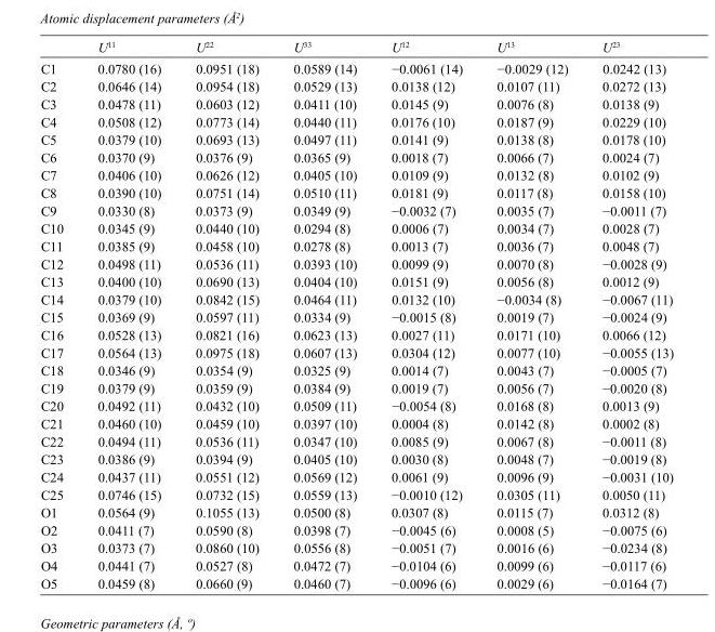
<table><thead><tr><td></td><td>U<sup>11</sup></td><td>U<sup>22</sup></td><td>U<sup>33</sup></td><td>U<sup>12</sup></td><td>U<sup>13</sup></td><td>U<sup>23</sup></td></tr></thead><tbody><tr><td>C1</td><td>0.0780 (16)</td><td>0.0951 (18)</td><td>0.0589 (14)</td><td>−0.0061 (14)</td><td>−0.0029 (12)</td><td>0.0242 (13)</td></tr><tr><td>C2</td><td>0.0646 (14)</td><td>0.0954 (18)</td><td>0.0529 (13)</td><td>0.0138 (12)</td><td>0.0107 (11)</td><td>0.0272 (13)</td></tr><tr><td>C3</td><td>0.0478 (11)</td><td>0.0603 (12)</td><td>0.0411 (10)</td><td>0.0145 (9)</td><td>0.0076 (8)</td><td>0.0138 (9)</td></tr><tr><td>C4</td><td>0.0508 (12)</td><td>0.0773 (14)</td><td>0.0440 (11)</td><td>0.0176 (10)</td><td>0.0187 (9)</td><td>0.0229 (10)</td></tr><tr><td>C5</td><td>0.0379 (10)</td><td>0.0693 (13)</td><td>0.0497 (11)</td><td>0.0141 (9)</td><td>0.0138 (8)</td><td>0.0178 (10)</td></tr><tr><td>C6</td><td>0.0370 (9)</td><td>0.0376 (9)</td><td>0.0365 (9)</td><td>0.0018 (7)</td><td>0.0066 (7)</td><td>0.0024 (7)</td></tr><tr><td>C7</td><td>0.0406 (10)</td><td>0.0626 (12)</td><td>0.0405 (10)</td><td>0.0109 (9)</td><td>0.0132 (8)</td><td>0.0102 (9)</td></tr><tr><td>C8</td><td>0.0390 (10)</td><td>0.0751 (14)</td><td>0.0510 (11)</td><td>0.0181 (9)</td><td>0.0117 (8)</td><td>0.0158 (10)</td></tr><tr><td>C9</td><td>0.0330 (8)</td><td>0.0373 (9)</td><td>0.0349 (9)</td><td>−0.0032 (7)</td><td>0.0035 (7)</td><td>−0.0011 (7)</td></tr><tr><td>C10</td><td>0.0345 (9)</td><td>0.0440 (10)</td><td>0.0294 (8)</td><td>0.0006 (7)</td><td>0.0034 (7)</td><td>0.0028 (7)</td></tr><tr><td>C11</td><td>0.0385 (9)</td><td>0.0458 (10)</td><td>0.0278 (8)</td><td>0.0013 (7)</td><td>0.0036 (7)</td><td>0.0048 (7)</td></tr><tr><td>C12</td><td>0.0498 (11)</td><td>0.0536 (11)</td><td>0.0393 (10)</td><td>0.0099 (9)</td><td>0.0070 (8)</td><td>−0.0028 (9)</td></tr><tr><td>C13</td><td>0.0400 (10)</td><td>0.0690 (13)</td><td>0.0404 (10)</td><td>0.0151 (9)</td><td>0.0056 (8)</td><td>0.0012 (9)</td></tr><tr><td>C14</td><td>0.0379 (10)</td><td>0.0842 (15)</td><td>0.0464 (11)</td><td>0.0132 (10)</td><td>−0.0034 (8)</td><td>−0.0067 (11)</td></tr><tr><td>C15</td><td>0.0369 (9)</td><td>0.0597 (11)</td><td>0.0334 (9)</td><td>−0.0015 (8)</td><td>0.0019 (7)</td><td>−0.0024 (9)</td></tr><tr><td>C16</td><td>0.0528 (13)</td><td>0.0821 (16)</td><td>0.0623 (13)</td><td>0.0027 (11)</td><td>0.0171 (10)</td><td>0.0066 (12)</td></tr><tr><td>C17</td><td>0.0564 (13)</td><td>0.0975 (18)</td><td>0.0607 (13)</td><td>0.0304 (12)</td><td>0.0077 (10)</td><td>−0.0055 (13)</td></tr><tr><td>C18</td><td>0.0346 (9)</td><td>0.0354 (9)</td><td>0.0325 (9)</td><td>0.0014 (7)</td><td>0.0043 (7)</td><td>−0.0005 (7)</td></tr><tr><td>C19</td><td>0.0379 (9)</td><td>0.0359 (9)</td><td>0.0384 (9)</td><td>0.0019 (7)</td><td>0.0056 (7)</td><td>−0.0020 (8)</td></tr><tr><td>C20</td><td>0.0492 (11)</td><td>0.0432 (10)</td><td>0.0509 (11)</td><td>−0.0054 (8)</td><td>0.0168 (8)</td><td>0.0013 (9)</td></tr><tr><td>C21</td><td>0.0460 (10)</td><td>0.0459 (10)</td><td>0.0397 (10)</td><td>0.0004 (8)</td><td>0.0142 (8)</td><td>0.0002 (8)</td></tr><tr><td>C22</td><td>0.0494 (11)</td><td>0.0536 (11)</td><td>0.0347 (10)</td><td>0.0085 (9)</td><td>0.0067 (8)</td><td>−0.0011 (8)</td></tr><tr><td>C23</td><td>0.0386 (9)</td><td>0.0394 (9)</td><td>0.0405 (10)</td><td>0.0030 (8)</td><td>0.0048 (7)</td><td>−0.0019 (8)</td></tr><tr><td>C24</td><td>0.0437 (11)</td><td>0.0551 (12)</td><td>0.0569 (12)</td><td>0.0061 (9)</td><td>0.0096 (9)</td><td>−0.0031 (10)</td></tr><tr><td>C25</td><td>0.0746 (15)</td><td>0.0732 (15)</td><td>0.0559 (13)</td><td>−0.0010 (12)</td><td>0.0305 (11)</td><td>0.0050 (11)</td></tr><tr><td>O1</td><td>0.0564 (9)</td><td>0.1055 (13)</td><td>0.0500 (8)</td><td>0.0307 (8)</td><td>0.0115 (7)</td><td>0.0312 (8)</td></tr><tr><td>O2</td><td>0.0411 (7)</td><td>0.0590 (8)</td><td>0.0398 (7)</td><td>−0.0045 (6)</td><td>0.0008 (5)</td><td>−0.0075 (6)</td></tr><tr><td>O3</td><td>0.0373 (7)</td><td>0.0860 (10)</td><td>0.0556 (8)</td><td>−0.0051 (7)</td><td>0.0016 (6)</td><td>−0.0234 (8)</td></tr><tr><td>O4</td><td>0.0441 (7)</td><td>0.0527 (8)</td><td>0.0472 (7)</td><td>−0.0104 (6)</td><td>0.0099 (6)</td><td>−0.0117 (6)</td></tr><tr><td>O5</td><td>0.0459 (8)</td><td>0.0660 (9)</td><td>0.0460 (7)</td><td>−0.0096 (6)</td><td>0.0029 (6)</td><td>−0.0164 (7)</td></tr></tbody></table>